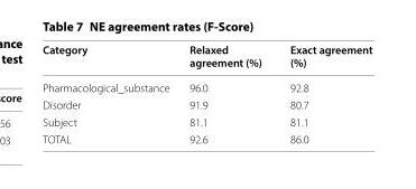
<table><thead><tr><td>Category</td><td>Relaxed agreement (%)</td><td>Exact agreement (%)</td></tr></thead><tbody><tr><td>Pharmacological_substance</td><td>96.0</td><td>92.8</td></tr><tr><td>Disorder</td><td>91.9</td><td>80.7</td></tr><tr><td>Subject</td><td>81.1</td><td>81.1</td></tr><tr><td>TOTAL</td><td>92.6</td><td>86.0</td></tr></tbody></table>